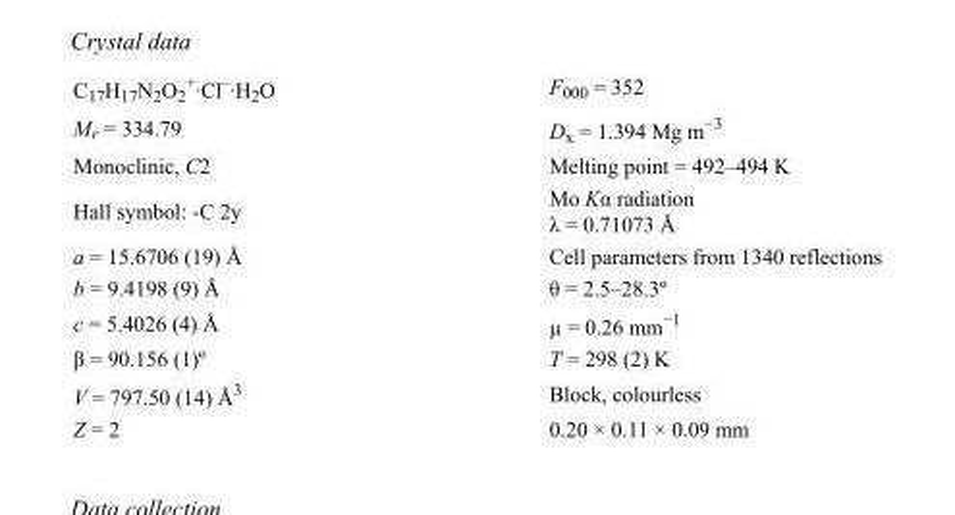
<table><tbody><tr><td>C<sub>17</sub>H<sub>17</sub>N<sub>2</sub>O<sub>2</sub> <sup>+</sup>·Cl<sup>–</sup>·H<sub>2</sub>O</td><td>F000 = 352</td></tr><tr><td>M<sub>r</sub> = 334.79</td><td>D<sub>x</sub> = 1.394 Mg m<sup>−3</sup></td></tr><tr><td>Monoclinic, C2</td><td>Melting point = 492–494 K</td></tr><tr><td>Hall symbol: -C 2y</td><td>Mo Kα radiation λ = 0.71073 Å</td></tr><tr><td>a = 15.6706 (19) Å</td><td>Cell parameters from 1340 reflections</td></tr><tr><td>b = 9.4198 (9) Å</td><td>θ = 2.5–28.3º</td></tr><tr><td>c = 5.4026 (4) Å</td><td>µ = 0.26 mm<sup>−1</sup></td></tr><tr><td>β = 90.156 (1)º</td><td>T = 298 (2) K</td></tr><tr><td>V = 797.50 (14) Å<sup>3</sup></td><td>Block, colourless</td></tr><tr><td>Z = 2</td><td>0.20 × 0.11 × 0.09 mm</td></tr></tbody></table>